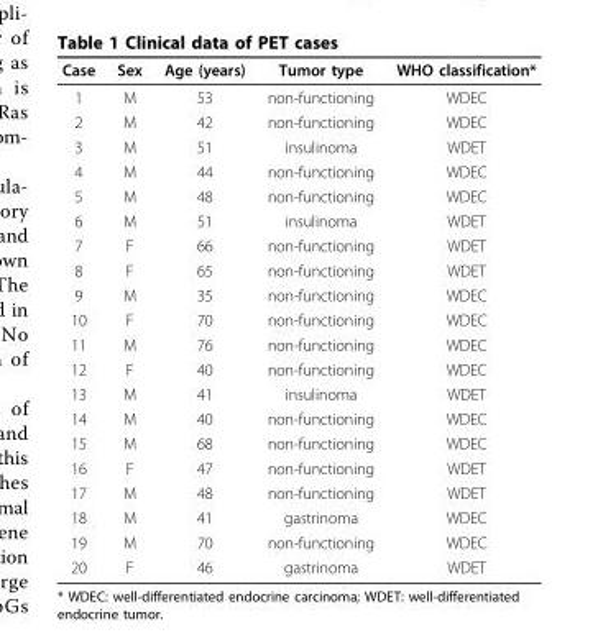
<table><thead><tr><td>Case</td><td>Sex</td><td>Age (years)</td><td>Tumor type</td><td>WHO classification*</td></tr></thead><tbody><tr><td>1</td><td>M</td><td>53</td><td>non-functioning</td><td>WDEC</td></tr><tr><td>2</td><td>M</td><td>42</td><td>non-functioning</td><td>WDEC</td></tr><tr><td>3</td><td>M</td><td>51</td><td>insulinoma</td><td>WDET</td></tr><tr><td>4</td><td>M</td><td>44</td><td>non-functioning</td><td>WDEC</td></tr><tr><td>5</td><td>M</td><td>48</td><td>non-functioning</td><td>WDEC</td></tr><tr><td>6</td><td>M</td><td>51</td><td>insulinoma</td><td>WDET</td></tr><tr><td>7</td><td>F</td><td>66</td><td>non-functioning</td><td>WDET</td></tr><tr><td>8</td><td>F</td><td>65</td><td>non-functioning</td><td>WDET</td></tr><tr><td>9</td><td>M</td><td>35</td><td>non-functioning</td><td>WDEC</td></tr><tr><td>10</td><td>F</td><td>70</td><td>non-functioning</td><td>WDEC</td></tr><tr><td>11</td><td>M</td><td>76</td><td>non-functioning</td><td>WDEC</td></tr><tr><td>12</td><td>F</td><td>40</td><td>non-functioning</td><td>WDEC</td></tr><tr><td>13</td><td>M</td><td>41</td><td>insulinoma</td><td>WDET</td></tr><tr><td>14</td><td>M</td><td>40</td><td>non-functioning</td><td>WDEC</td></tr><tr><td>15</td><td>M</td><td>68</td><td>non-functioning</td><td>WDEC</td></tr><tr><td>16</td><td>F</td><td>47</td><td>non-functioning</td><td>WDET</td></tr><tr><td>17</td><td>M</td><td>48</td><td>non-functioning</td><td>WDET</td></tr><tr><td>18</td><td>M</td><td>41</td><td>gastrinoma</td><td>WDEC</td></tr><tr><td>19</td><td>M</td><td>70</td><td>non-functioning</td><td>WDEC</td></tr><tr><td>20</td><td>F</td><td>46</td><td>gastrinoma</td><td>WDET</td></tr></tbody></table>